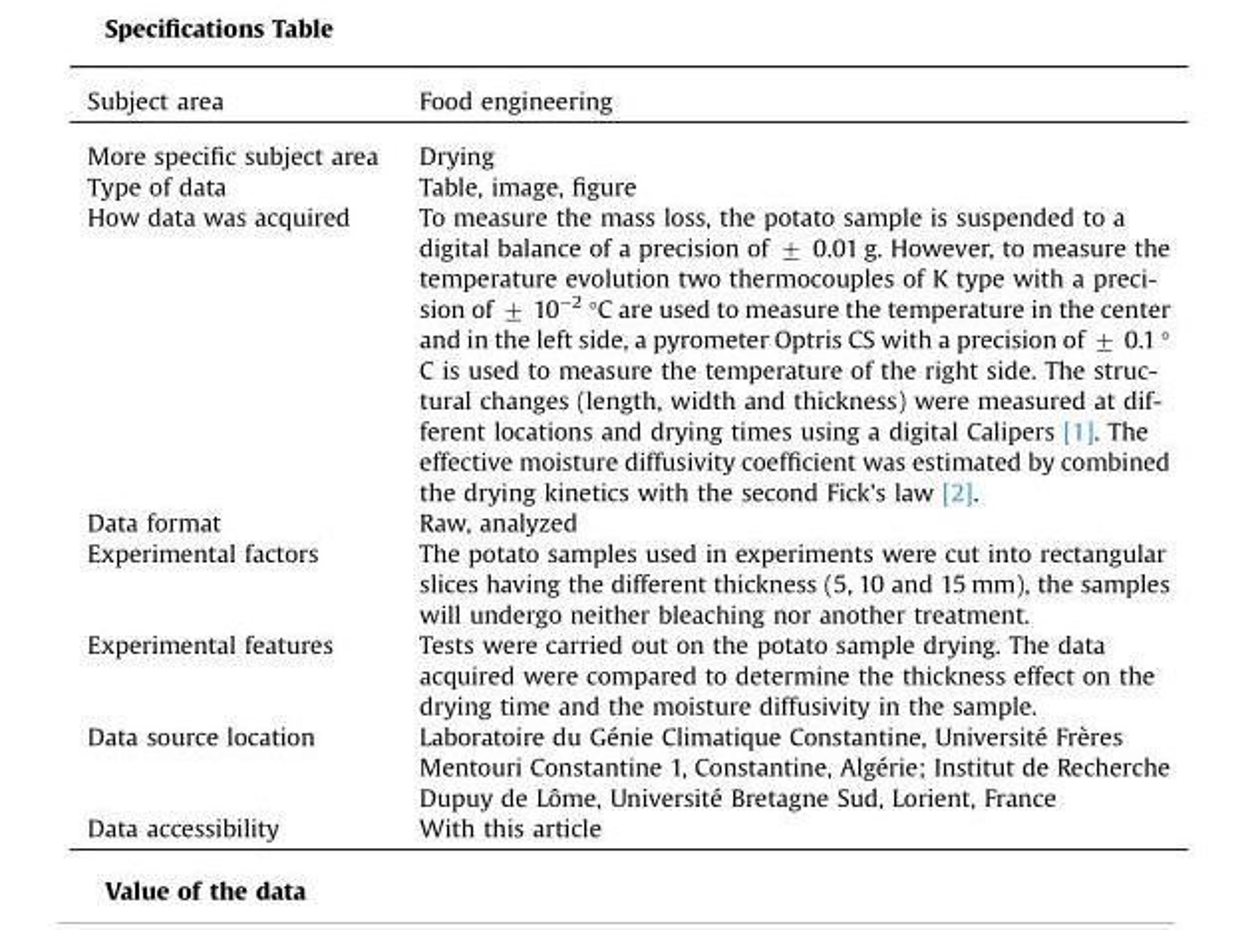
<table><thead><tr><td>Subject area</td><td>Food engineering</td></tr></thead><tbody><tr><td>More specific subject area</td><td>Drying</td></tr><tr><td>Type of data</td><td>Table, image, figure</td></tr><tr><td>How data was acquired</td><td>To measure the mass loss, the potato sample is suspended to a digital balance of a precision of 7 0.01 g. However, to measure the temperature evolution two thermocouples of K type with a preci- sion of 7 10−2 °C are used to measure the temperature in the center and in the left side, a pyrometer Optris CS with a precision of 7 0.1 ° C is used to measure the temperature of the right side. The struc- tural changes (length, width and thickness) were measured at dif- ferent locations and drying times using a digital Calipers [1]. The effective moisture diffusivity coefficient was estimated by combined the drying kinetics with the second Fick&#x27;s law [2].</td></tr><tr><td>Data format</td><td>Raw, analyzed</td></tr><tr><td>Experimental factors</td><td>The potato samples used in experiments were cut into rectangular slices having the different thickness (5, 10 and 15 mm), the samples will undergo neither bleaching nor another treatment.</td></tr><tr><td>Experimental features</td><td>Tests were carried out on the potato sample drying. The data acquired were compared to determine the thickness effect on the drying time and the moisture diffusivity in the sample.</td></tr><tr><td>Data source location</td><td>Laboratoire du Génie Climatique Constantine, Université Frères Mentouri Constantine 1, Constantine, Algérie; Institut de Recherche Dupuy de Lôme, Université Bretagne Sud, Lorient, France</td></tr><tr><td>Data accessibility</td><td>With this article</td></tr></tbody></table>